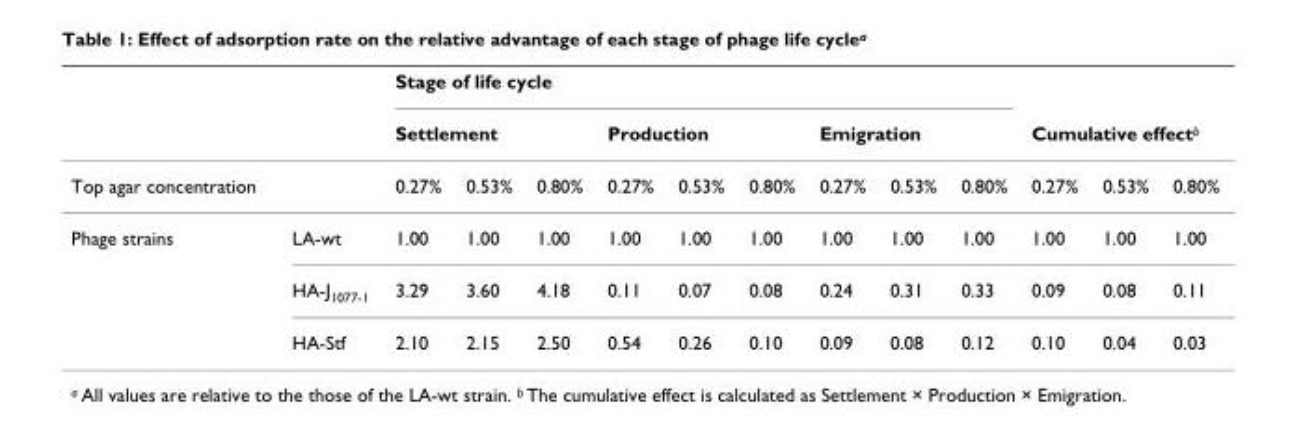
<table><thead><tr><td rowspan="3">Top agar concentration</td><td rowspan="3"></td><td colspan="9">Stage of life cycle</td><td></td><td></td><td></td></tr><tr><td colspan="3">Settlement</td><td colspan="3">Production</td><td colspan="3">Emigration</td><td colspan="3">Cumulative effect<sup>b</sup></td></tr><tr><td>0.27%</td><td>0.53%</td><td>0.80%</td><td>0.27%</td><td>0.53%</td><td>0.80%</td><td>0.27%</td><td>0.53%</td><td>0.80%</td><td>0.27%</td><td>0.53%</td><td>0.80%</td></tr></thead><tbody><tr><td rowspan="3">Phage strains</td><td>LA-wt</td><td>1.00</td><td>1.00</td><td>1.00</td><td>1.00</td><td>1.00</td><td>1.00</td><td>1.00</td><td>1.00</td><td>1.00</td><td>1.00</td><td>1.00</td><td>1.00</td></tr><tr><td>HA-J<sub>1077-1</sub></td><td>3.29</td><td>3.60</td><td>4.18</td><td>0.11</td><td>0.07</td><td>0.08</td><td>0.24</td><td>0.31</td><td>0.33</td><td>0.09</td><td>0.08</td><td>0.11</td></tr><tr><td>HA-Stf</td><td>2.10</td><td>2.15</td><td>2.50</td><td>0.54</td><td>0.26</td><td>0.10</td><td>0.09</td><td>0.08</td><td>0.12</td><td>0.10</td><td>0.04</td><td>0.03</td></tr></tbody></table>